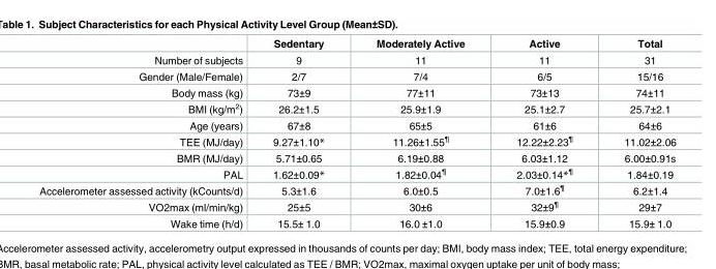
<table><thead><tr><td></td><td>Sedentary</td><td>Moderately Active</td><td>Active</td><td>Total</td></tr></thead><tbody><tr><td>Number of subjects</td><td>9</td><td>11</td><td>11</td><td>31</td></tr><tr><td>Gender (Male/Female)</td><td>2/7</td><td>7/4</td><td>6/5</td><td>15/16</td></tr><tr><td>Body mass (kg)</td><td>73±9</td><td>77±11</td><td>73±13</td><td>74±11</td></tr><tr><td>BMI (kg/m<sup>2</sup>)</td><td>26.2±1.5</td><td>25.9±1.9</td><td>25.1±2.7</td><td>25.7±2.1</td></tr><tr><td>Age (years)</td><td>67±8</td><td>65±5</td><td>61±6</td><td>64±6</td></tr><tr><td>TEE (MJ/day)</td><td>9.27±1.10*</td><td>11.26±1.55<sup>¶</sup></td><td>12.22±2.23<sup>¶</sup></td><td>11.02±2.06</td></tr><tr><td>BMR (MJ/day)</td><td>5.71±0.65</td><td>6.19±0.88</td><td>6.03±1.12</td><td>6.00±0.91s</td></tr><tr><td>PAL</td><td>1.62±0.09*</td><td>1.82±0.04<sup>¶</sup></td><td>2.03±0.14*<sup>¶</sup></td><td>1.84±0.19</td></tr><tr><td>Accelerometer assessed activity (kCounts/d)</td><td>5.3±1.6</td><td>6.0±0.5</td><td>7.0±1.6<sup>¶</sup></td><td>6.2±1.4</td></tr><tr><td>VO2max (ml/min/kg)</td><td>25±5</td><td>30±6</td><td>32±9<sup>¶</sup></td><td>29±7</td></tr><tr><td>Wake time (h/d)</td><td>15.5± 1.0</td><td>16.0 ±1.0</td><td>15.9±0.9</td><td>15.9± 1.0</td></tr></tbody></table>